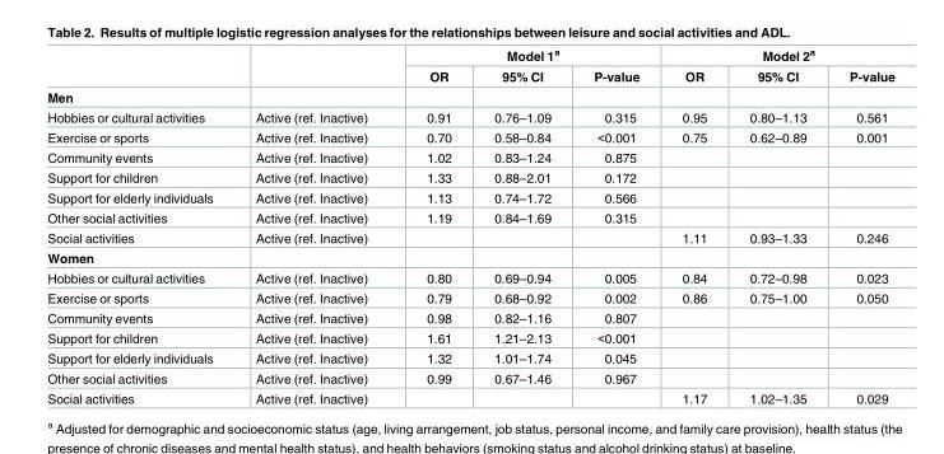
<table><thead><tr><td rowspan="2"></td><td rowspan="2"></td><td colspan="3">Model 1<sup>a</sup></td><td colspan="3">Model 2<sup>a</sup></td></tr><tr><td>OR</td><td>95% CI</td><td>P-value</td><td>OR</td><td>95% CI</td><td>P-value</td></tr></thead><tbody><tr><td colspan="8">Men</td></tr><tr><td>Hobbies or cultural activities</td><td>Active (ref. Inactive)</td><td>0.91</td><td>0.76–1.09</td><td>0.315</td><td>0.95</td><td>0.80–1.13</td><td>0.561</td></tr><tr><td>Exercise or sports</td><td>Active (ref. Inactive)</td><td>0.70</td><td>0.58–0.84</td><td>&lt;0.001</td><td>0.75</td><td>0.62–0.89</td><td>0.001</td></tr><tr><td>Community events</td><td>Active (ref. Inactive)</td><td>1.02</td><td>0.83–1.24</td><td>0.875</td><td></td><td></td><td></td></tr><tr><td>Support for children</td><td>Active (ref. Inactive)</td><td>1.33</td><td>0.88–2.01</td><td>0.172</td><td></td><td></td><td></td></tr><tr><td>Support for elderly individuals</td><td>Active (ref. Inactive)</td><td>1.13</td><td>0.74–1.72</td><td>0.566</td><td></td><td></td><td></td></tr><tr><td>Other social activities</td><td>Active (ref. Inactive)</td><td>1.19</td><td>0.84–1.69</td><td>0.315</td><td></td><td></td><td></td></tr><tr><td>Social activities</td><td>Active (ref. Inactive)</td><td></td><td></td><td></td><td>1.11</td><td>0.93–1.33</td><td>0.246</td></tr><tr><td colspan="8">Women</td></tr><tr><td>Hobbies or cultural activities</td><td>Active (ref. Inactive)</td><td>0.80</td><td>0.69–0.94</td><td>0.005</td><td>0.84</td><td>0.72–0.98</td><td>0.023</td></tr><tr><td>Exercise or sports</td><td>Active (ref. Inactive)</td><td>0.79</td><td>0.68–0.92</td><td>0.002</td><td>0.86</td><td>0.75–1.00</td><td>0.050</td></tr><tr><td>Community events</td><td>Active (ref. Inactive)</td><td>0.98</td><td>0.82–1.16</td><td>0.807</td><td></td><td></td><td></td></tr><tr><td>Support for children</td><td>Active (ref. Inactive)</td><td>1.61</td><td>1.21–2.13</td><td>&lt;0.001</td><td></td><td></td><td></td></tr><tr><td>Support for elderly individuals</td><td>Active (ref. Inactive)</td><td>1.32</td><td>1.01–1.74</td><td>0.045</td><td></td><td></td><td></td></tr><tr><td>Other social activities</td><td>Active (ref. Inactive)</td><td>0.99</td><td>0.67–1.46</td><td>0.967</td><td></td><td></td><td></td></tr><tr><td>Social activities</td><td>Active (ref. Inactive)</td><td></td><td></td><td></td><td>1.17</td><td>1.02–1.35</td><td>0.029</td></tr></tbody></table>